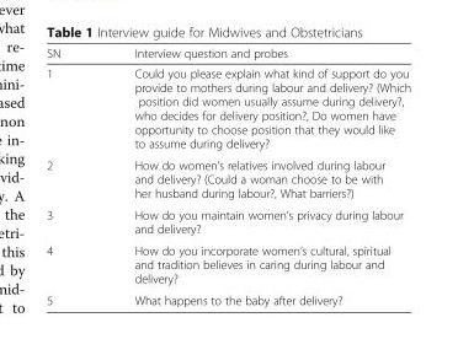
<table><thead><tr><td>SN</td><td>Interview question and probes</td></tr></thead><tbody><tr><td>1</td><td>Could you please explain what kind of support do you provide to mothers during labour and delivery? (Which position did women usually assume during delivery?, who decides for delivery position?, Do women have opportunity to choose position that they would like to assume during delivery?</td></tr><tr><td>2</td><td>How do women’s relatives involved during labour and delivery? (Could a woman choose to be with her husband during labour?, What barriers?)</td></tr><tr><td>3</td><td>How do you maintain women’s privacy during labour and delivery?</td></tr><tr><td>4</td><td>How do you incorporate women’s cultural, spiritual and tradition believes in caring during labour and delivery?</td></tr><tr><td>5</td><td>What happens to the baby after delivery?</td></tr></tbody></table>